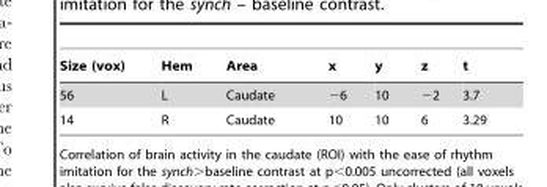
<table><thead><tr><td>Size (vox)</td><td>Hem</td><td>Area</td><td>x</td><td>y</td><td>z</td><td>t</td></tr></thead><tbody><tr><td>56</td><td>L</td><td>Caudate</td><td>−6</td><td>10</td><td>−2</td><td>3.7</td></tr><tr><td>14</td><td>R</td><td>Caudate</td><td>10</td><td>10</td><td>6</td><td>3.29</td></tr></tbody></table>